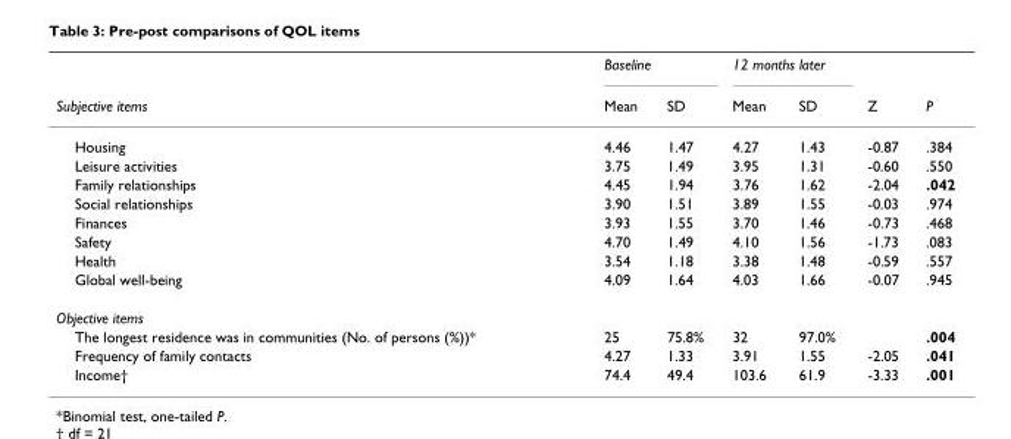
<table><thead><tr><td rowspan="2">Subjective items</td><td colspan="2">Baseline</td><td colspan="2">12 months later</td><td rowspan="2">Z</td><td rowspan="2">P</td></tr><tr><td>Mean</td><td>SD</td><td>Mean</td><td>SD</td></tr></thead><tbody><tr><td>Housing</td><td>4.46</td><td>1.47</td><td>4.27</td><td>1.43</td><td>-0.87</td><td>.384</td></tr><tr><td>Leisure activities</td><td>3.75</td><td>1.49</td><td>3.95</td><td>1.31</td><td>-0.60</td><td>.550</td></tr><tr><td>Family relationships</td><td>4.45</td><td>1.94</td><td>3.76</td><td>1.62</td><td>-2.04</td><td>.042</td></tr><tr><td>Social relationships</td><td>3.90</td><td>1.51</td><td>3.89</td><td>1.55</td><td>-0.03</td><td>.974</td></tr><tr><td>Finances</td><td>3.93</td><td>1.55</td><td>3.70</td><td>1.46</td><td>-0.73</td><td>.468</td></tr><tr><td>Safety</td><td>4.70</td><td>1.49</td><td>4.10</td><td>1.56</td><td>-1.73</td><td>.083</td></tr><tr><td>Health</td><td>3.54</td><td>1.18</td><td>3.38</td><td>1.48</td><td>-0.59</td><td>.557</td></tr><tr><td>Global well-being</td><td>4.09</td><td>1.64</td><td>4.03</td><td>1.66</td><td>-0.07</td><td>.945</td></tr><tr><td colspan="7">Objective items</td></tr><tr><td>The longest residence was in communities (No. of persons (%))*</td><td>25</td><td>75.8%</td><td>32</td><td>97.0%</td><td></td><td>.004</td></tr><tr><td>Frequency of family contacts</td><td>4.27</td><td>1.33</td><td>3.91</td><td>1.55</td><td>-2.05</td><td>.041</td></tr><tr><td>Income†</td><td>74.4</td><td>49.4</td><td>103.6</td><td>61.9</td><td>-3.33</td><td>.001</td></tr></tbody></table>